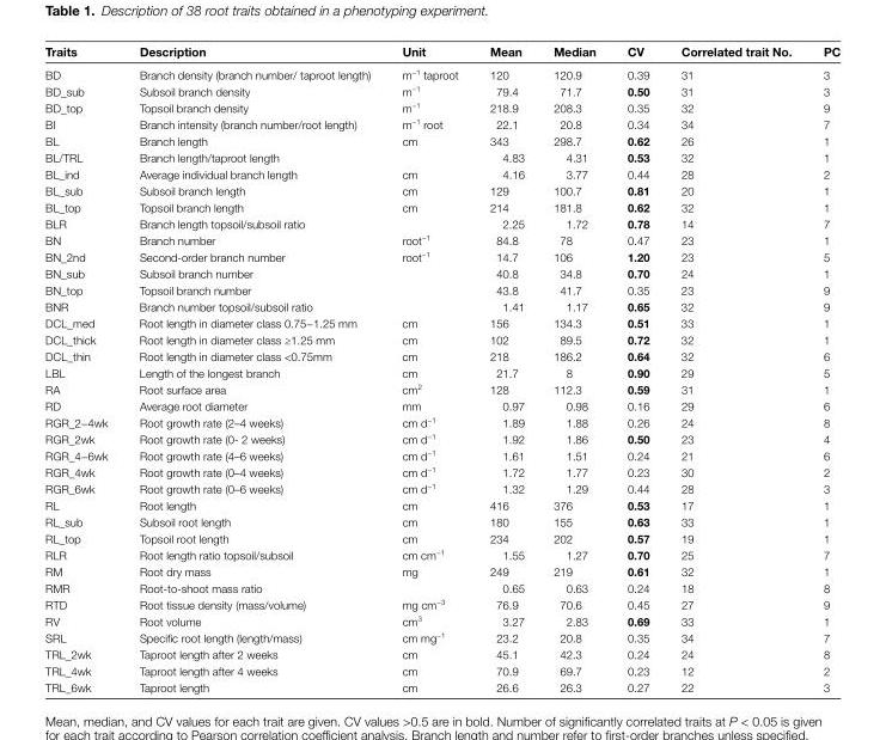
<table><thead><tr><td>Traits</td><td>Description</td><td>Unit</td><td>Mean</td><td>Median</td><td>CV</td><td>Correlated trait No.</td><td>PC</td></tr></thead><tbody><tr><td>BD</td><td>Branch density (branch number/ taproot length)</td><td>m<sup>−1</sup> taproot</td><td>120</td><td>120.9</td><td>0.39</td><td>31</td><td>3</td></tr><tr><td>BD_sub</td><td>Subsoil branch density</td><td>m<sup>−1</sup></td><td>79.4</td><td>71.7</td><td>0.50</td><td>31</td><td>3</td></tr><tr><td>BD_top</td><td>Topsoil branch density</td><td>m<sup>−1</sup></td><td>218.9</td><td>208.3</td><td>0.35</td><td>32</td><td>9</td></tr><tr><td>BI</td><td>Branch intensity (branch number/root length)</td><td>m<sup>−1</sup> root</td><td>22.1</td><td>20.8</td><td>0.34</td><td>34</td><td>7</td></tr><tr><td>BL</td><td>Branch length</td><td>cm</td><td>343</td><td>298.7</td><td>0.62</td><td>26</td><td>1</td></tr><tr><td>BL/TRL</td><td>Branch length/taproot length</td><td></td><td>4.83</td><td>4.31</td><td>0.53</td><td>32</td><td>1</td></tr><tr><td>BL_ind</td><td>Average individual branch length</td><td>cm</td><td>4.16</td><td>3.77</td><td>0.44</td><td>28</td><td>2</td></tr><tr><td>BL_sub</td><td>Subsoil branch length</td><td>cm</td><td>129</td><td>100.7</td><td>0.81</td><td>20</td><td>1</td></tr><tr><td>BL_top</td><td>Topsoil branch length</td><td>cm</td><td>214</td><td>181.8</td><td>0.62</td><td>32</td><td>1</td></tr><tr><td>BLR</td><td>Branch length topsoil/subsoil ratio</td><td></td><td>2.25</td><td>1.72</td><td>0.78</td><td>14</td><td>7</td></tr><tr><td>BN</td><td>Branch number</td><td>root<sup>−1</sup></td><td>84.8</td><td>78</td><td>0.47</td><td>23</td><td>1</td></tr><tr><td>BN_2nd</td><td>Second-order branch number</td><td>root<sup>−1</sup></td><td>14.7</td><td>106</td><td>1.20</td><td>23</td><td>5</td></tr><tr><td>BN_sub</td><td>Subsoil branch number</td><td></td><td>40.8</td><td>34.8</td><td>0.70</td><td>24</td><td>1</td></tr><tr><td>BN_top</td><td>Topsoil branch number</td><td></td><td>43.8</td><td>41.7</td><td>0.35</td><td>23</td><td>9</td></tr><tr><td>BNR</td><td>Branch number topsoil/subsoil ratio</td><td></td><td>1.41</td><td>1.17</td><td>0.65</td><td>32</td><td>9</td></tr><tr><td>DCL_med</td><td>Root length in diameter class 0.75−1.25 mm</td><td>cm</td><td>156</td><td>134.3</td><td>0.51</td><td>33</td><td>1</td></tr><tr><td>DCL_thick</td><td>Root length in diameter class ≥1.25 mm</td><td>cm</td><td>102</td><td>89.5</td><td>0.72</td><td>32</td><td>1</td></tr><tr><td>DCL_thin</td><td>Root length in diameter class &lt;0.75mm</td><td>cm</td><td>218</td><td>186.2</td><td>0.64</td><td>32</td><td>6</td></tr><tr><td>LBL</td><td>Length of the longest branch</td><td>cm</td><td>21.7</td><td>8</td><td>0.90</td><td>29</td><td>5</td></tr><tr><td>RA</td><td>Root surface area</td><td>cm<sup>2</sup></td><td>128</td><td>112.3</td><td>0.59</td><td>31</td><td>1</td></tr><tr><td>RD</td><td>Average root diameter</td><td>mm</td><td>0.97</td><td>0.98</td><td>0.16</td><td>29</td><td>6</td></tr><tr><td>RGR_2−4wk</td><td>Root growth rate (2–4 weeks)</td><td>cm d<sup>−1</sup></td><td>1.89</td><td>1.88</td><td>0.26</td><td>24</td><td>8</td></tr><tr><td>RGR_2wk</td><td>Root growth rate (0- 2 weeks)</td><td>cm d<sup>−1</sup></td><td>1.92</td><td>1.86</td><td>0.50</td><td>23</td><td>4</td></tr><tr><td>RGR_4−6wk</td><td>Root growth rate (4–6 weeks)</td><td>cm d<sup>−1</sup></td><td>1.61</td><td>1.51</td><td>0.24</td><td>21</td><td>6</td></tr><tr><td>RGR_4wk</td><td>Root growth rate (0–4 weeks)</td><td>cm d<sup>−1</sup></td><td>1.72</td><td>1.77</td><td>0.23</td><td>30</td><td>2</td></tr><tr><td>RGR_6wk</td><td>Root growth rate (0–6 weeks)</td><td>cm d<sup>−1</sup></td><td>1.32</td><td>1.29</td><td>0.44</td><td>28</td><td>3</td></tr><tr><td>RL</td><td>Root length</td><td>cm</td><td>416</td><td>376</td><td>0.53</td><td>17</td><td>1</td></tr><tr><td>RL_sub</td><td>Subsoil root length</td><td>cm</td><td>180</td><td>155</td><td>0.63</td><td>33</td><td>1</td></tr><tr><td>RL_top</td><td>Topsoil root length</td><td>cm</td><td>234</td><td>202</td><td>0.57</td><td>19</td><td>1</td></tr><tr><td>RLR</td><td>Root length ratio topsoil/subsoil</td><td>cm cm<sup>−1</sup></td><td>1.55</td><td>1.27</td><td>0.70</td><td>25</td><td>7</td></tr><tr><td>RM</td><td>Root dry mass</td><td>mg</td><td>249</td><td>219</td><td>0.61</td><td>32</td><td>1</td></tr><tr><td>RMR</td><td>Root-to-shoot mass ratio</td><td></td><td>0.65</td><td>0.63</td><td>0.24</td><td>18</td><td>8</td></tr><tr><td>RTD</td><td>Root tissue density (mass/volume)</td><td>mg cm<sup>−3</sup></td><td>76.9</td><td>70.6</td><td>0.45</td><td>27</td><td>9</td></tr><tr><td>RV</td><td>Root volume</td><td>cm<sup>3</sup></td><td>3.27</td><td>2.83</td><td>0.69</td><td>33</td><td>1</td></tr><tr><td>SRL</td><td>Specific root length (length/mass)</td><td>cm mg<sup>−1</sup></td><td>23.2</td><td>20.8</td><td>0.35</td><td>34</td><td>7</td></tr><tr><td>TRL_2wk</td><td>Taproot length after 2 weeks</td><td>cm</td><td>45.1</td><td>42.3</td><td>0.24</td><td>24</td><td>8</td></tr><tr><td>TRL_4wk</td><td>Taproot length after 4 weeks</td><td>cm</td><td>70.9</td><td>69.7</td><td>0.23</td><td>12</td><td>2</td></tr><tr><td>TRL_6wk</td><td>Taproot length</td><td>cm</td><td>26.6</td><td>26.3</td><td>0.27</td><td>22</td><td>3</td></tr></tbody></table>